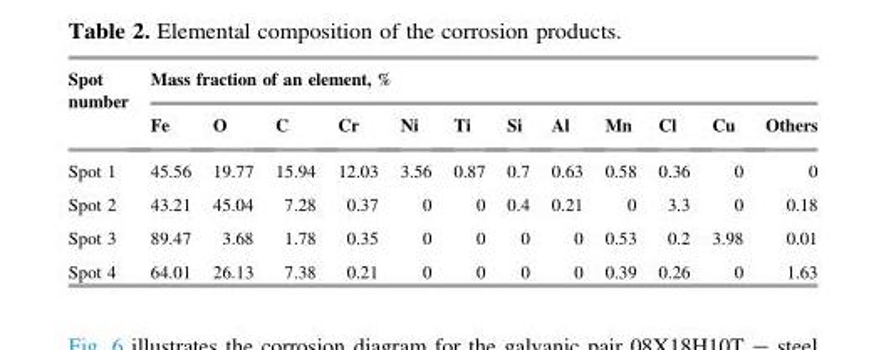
<table><thead><tr><td rowspan="2">Spot number</td><td colspan="12">Mass fraction of an element, %</td></tr><tr><td>Fe</td><td>O</td><td>C</td><td>Cr</td><td>Ni</td><td>Ti</td><td>Si</td><td>Al</td><td>Mn</td><td>Cl</td><td>Cu</td><td>Others</td></tr></thead><tbody><tr><td>Spot 1</td><td>45.56</td><td>19.77</td><td>15.94</td><td>12.03</td><td>3.56</td><td>0.87</td><td>0.7</td><td>0.63</td><td>0.58</td><td>0.36</td><td>0</td><td>0</td></tr><tr><td>Spot 2</td><td>43.21</td><td>45.04</td><td>7.28</td><td>0.37</td><td>0</td><td>0</td><td>0.4</td><td>0.21</td><td>0</td><td>3.3</td><td>0</td><td>0.18</td></tr><tr><td>Spot 3</td><td>89.47</td><td>3.68</td><td>1.78</td><td>0.35</td><td>0</td><td>0</td><td>0</td><td>0</td><td>0.53</td><td>0.2</td><td>3.98</td><td>0.01</td></tr><tr><td>Spot 4</td><td>64.01</td><td>26.13</td><td>7.38</td><td>0.21</td><td>0</td><td>0</td><td>0</td><td>0</td><td>0.39</td><td>0.26</td><td>0</td><td>1.63</td></tr></tbody></table>